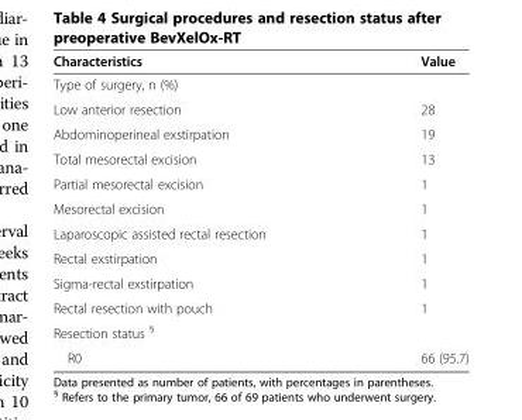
<table><thead><tr><td>Characteristics</td><td>Value</td></tr></thead><tbody><tr><td colspan="2">Type of surgery, n (%)</td></tr><tr><td>Low anterior resection</td><td>28</td></tr><tr><td>Abdominoperineal exstirpation</td><td>19</td></tr><tr><td>Total mesorectal excision</td><td>13</td></tr><tr><td>Partial mesorectal excision</td><td>1</td></tr><tr><td>Mesorectal excision</td><td>1</td></tr><tr><td>Laparoscopic assisted rectal resection</td><td>1</td></tr><tr><td>Rectal exstirpation</td><td>1</td></tr><tr><td>Sigma-rectal exstirpation</td><td>1</td></tr><tr><td>Rectal resection with pouch</td><td>1</td></tr><tr><td colspan="2">Resection status <sup>§</sup></td></tr><tr><td>R0</td><td>66 (95.7)</td></tr></tbody></table>